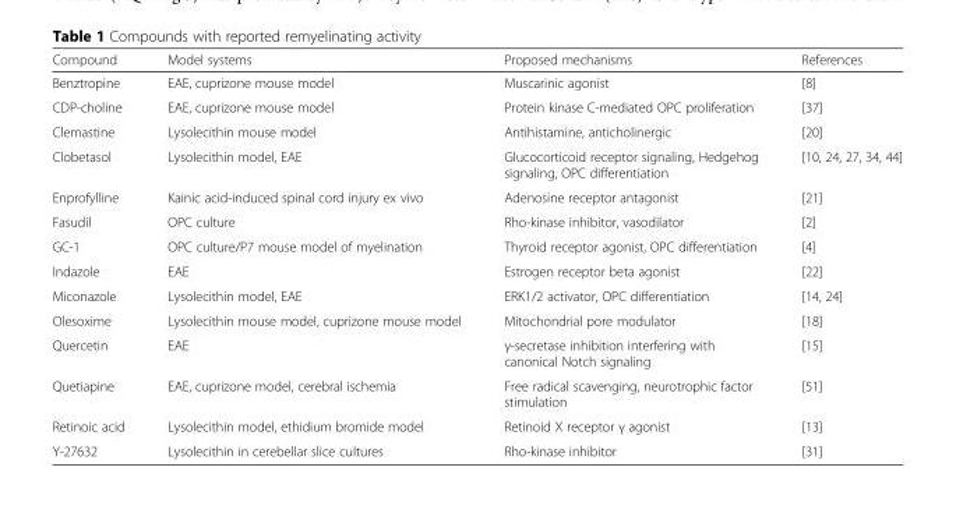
<table><thead><tr><td>Compound</td><td>Model systems</td><td>Proposed mechanisms</td><td>References</td></tr></thead><tbody><tr><td>Benztropine</td><td>EAE, cuprizone mouse model</td><td>Muscarinic agonist</td><td>[8]</td></tr><tr><td>CDP-choline</td><td>EAE, cuprizone mouse model</td><td>Protein kinase C-mediated OPC proliferation</td><td>[37]</td></tr><tr><td>Clemastine</td><td>Lysolecithin mouse model</td><td>Antihistamine, anticholinergic</td><td>[20]</td></tr><tr><td>Clobetasol</td><td>Lysolecithin model, EAE</td><td>Glucocorticoid receptor signaling, Hedgehog signaling, OPC differentiation</td><td>[10, 24, 27, 34, 44]</td></tr><tr><td>Enprofylline</td><td>Kainic acid-induced spinal cord injury ex vivo</td><td>Adenosine receptor antagonist</td><td>[21]</td></tr><tr><td>Fasudil</td><td>OPC culture</td><td>Rho-kinase inhibitor, vasodilator</td><td>[2]</td></tr><tr><td>GC-1</td><td>OPC culture/P7 mouse model of myelination</td><td>Thyroid receptor agonist, OPC differentiation</td><td>[4]</td></tr><tr><td>Indazole</td><td>EAE</td><td>Estrogen receptor beta agonist</td><td>[22]</td></tr><tr><td>Miconazole</td><td>Lysolecithin model, EAE</td><td>ERK1/2 activator, OPC differentiation</td><td>[14, 24]</td></tr><tr><td>Olesoxime</td><td>Lysolecithin mouse model, cuprizone mouse model</td><td>Mitochondrial pore modulator</td><td>[18]</td></tr><tr><td>Quercetin</td><td>EAE</td><td>γ-secretase inhibition interfering with canonical Notch signaling</td><td>[15]</td></tr><tr><td>Quetiapine</td><td>EAE, cuprizone model, cerebral ischemia</td><td>Free radical scavenging, neurotrophic factor stimulation</td><td>[51]</td></tr><tr><td>Retinoic acid</td><td>Lysolecithin model, ethidium bromide model</td><td>Retinoid X receptor γ agonist</td><td>[13]</td></tr><tr><td>Y-27632</td><td>Lysolecithin in cerebellar slice cultures</td><td>Rho-kinase inhibitor</td><td>[31]</td></tr></tbody></table>